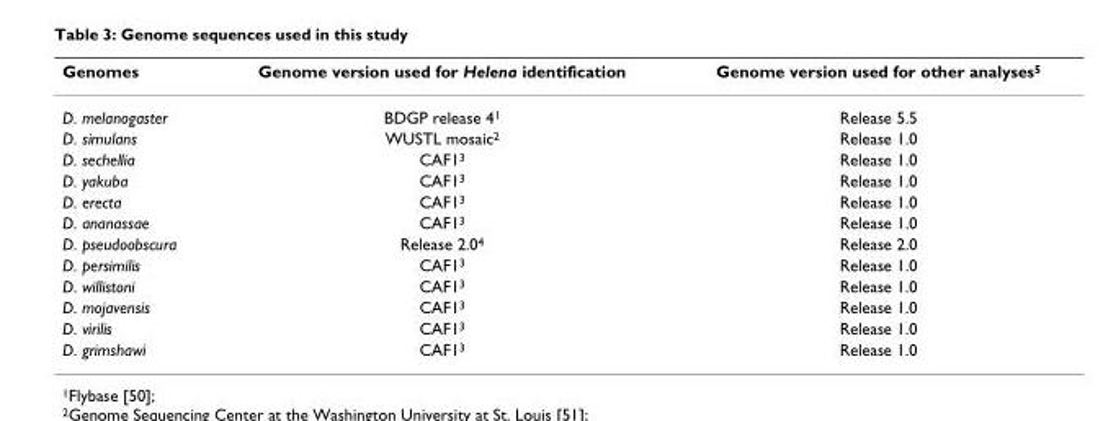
<table><thead><tr><td>Genomes</td><td>Genome version used for Helena identification</td><td>Genome version used for other analyses<sup>5</sup></td></tr></thead><tbody><tr><td>D. melanogaster</td><td>BDGP release 4<sup>1</sup></td><td>Release 5.5</td></tr><tr><td>D. simulans</td><td>WUSTL mosaic<sup>2</sup></td><td>Release 1.0</td></tr><tr><td>D. sechellia</td><td>CAF1<sup>3</sup></td><td>Release 1.0</td></tr><tr><td>D. yakuba</td><td>CAF1<sup>3</sup></td><td>Release 1.0</td></tr><tr><td>D. erecta</td><td>CAF1<sup>3</sup></td><td>Release 1.0</td></tr><tr><td>D. ananassae</td><td>CAF1<sup>3</sup></td><td>Release 1.0</td></tr><tr><td>D. pseudoobscura</td><td>Release 2.0<sup>4</sup></td><td>Release 2.0</td></tr><tr><td>D. persimilis</td><td>CAF1<sup>3</sup></td><td>Release 1.0</td></tr><tr><td>D. willistoni</td><td>CAF1<sup>3</sup></td><td>Release 1.0</td></tr><tr><td>D. mojavensis</td><td>CAF1<sup>3</sup></td><td>Release 1.0</td></tr><tr><td>D. virilis</td><td>CAF1<sup>3</sup></td><td>Release 1.0</td></tr><tr><td>D. grimshawi</td><td>CAF1<sup>3</sup></td><td>Release 1.0</td></tr></tbody></table>